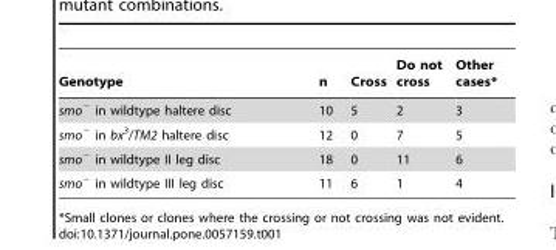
<table><thead><tr><td>Genotype</td><td>n</td><td>Cross</td><td>Do not cross</td><td>Other cases*</td></tr></thead><tbody><tr><td>smo<sup>−</sup> in wildtype haltere disc</td><td>10</td><td>5</td><td>2</td><td>3</td></tr><tr><td>smo<sup>−</sup> in bx<sup>3</sup>/TM2 haltere disc</td><td>12</td><td>0</td><td>7</td><td>5</td></tr><tr><td>smo<sup>−</sup> in wildtype II leg disc</td><td>18</td><td>0</td><td>11</td><td>6</td></tr><tr><td>smo<sup>−</sup> in wildtype III leg disc</td><td>11</td><td>6</td><td>1</td><td>4</td></tr></tbody></table>